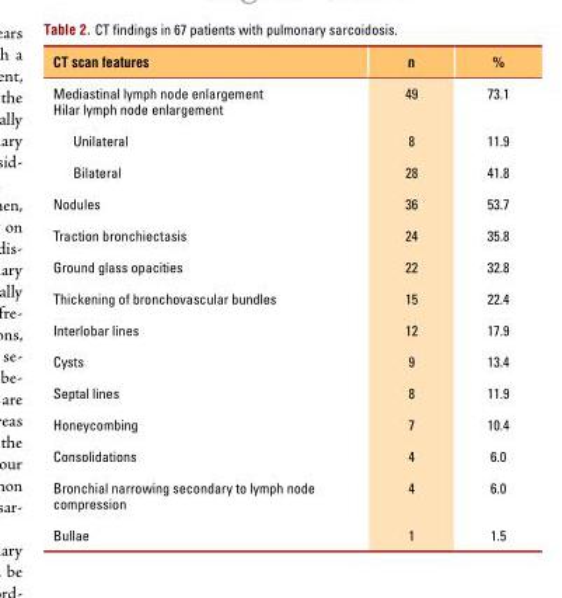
<table><thead><tr><td>CT scan features</td><td>n</td><td>%</td></tr></thead><tbody><tr><td>Mediastinal lymph node enlargement Hilar lymph node enlargement</td><td>49</td><td>73.1</td></tr><tr><td>Unilateral</td><td>8</td><td>11.9</td></tr><tr><td>Bilateral</td><td>28</td><td>41.8</td></tr><tr><td>Nodules</td><td>36</td><td>53.7</td></tr><tr><td>Traction bronchiectasis</td><td>24</td><td>35.8</td></tr><tr><td>Ground glass opacities</td><td>22</td><td>32.8</td></tr><tr><td>Thickening of bronchovascular bundles</td><td>15</td><td>22.4</td></tr><tr><td>Interlobar lines</td><td>12</td><td>17.9</td></tr><tr><td>Cysts</td><td>9</td><td>13.4</td></tr><tr><td>Septal lines</td><td>8</td><td>11.9</td></tr><tr><td>Honeycombing</td><td>7</td><td>10.4</td></tr><tr><td>Consolidations</td><td>4</td><td>6.0</td></tr><tr><td>Bronchial narrowing secondary to lymph node compression</td><td>4</td><td>6.0</td></tr><tr><td>Bullae</td><td>1</td><td>1.5</td></tr></tbody></table>